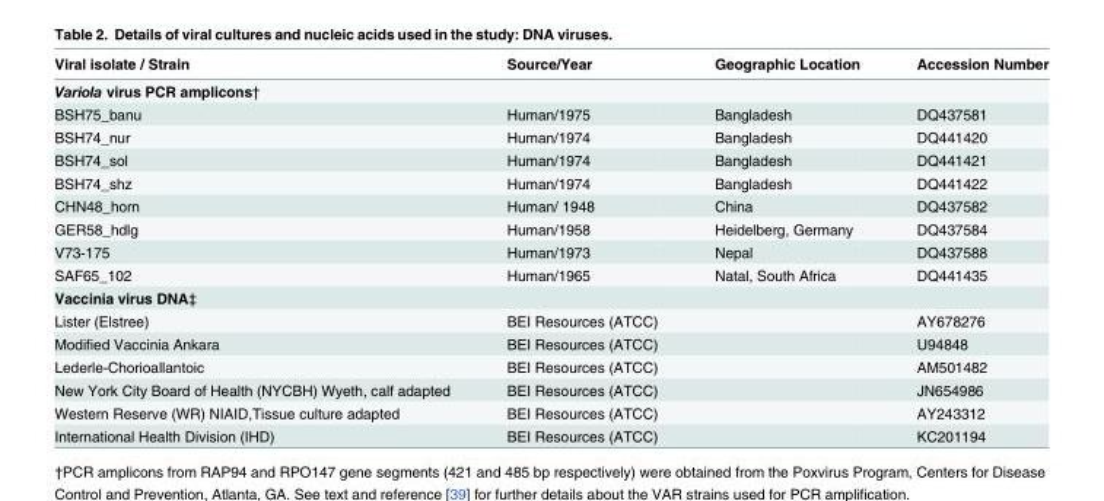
<table><thead><tr><td>Viral isolate / Strain</td><td>Source/Year</td><td>Geographic Location</td><td>Accession Number</td></tr></thead><tbody><tr><td colspan="4">Variola virus PCR amplicons†</td></tr><tr><td>BSH75_banu</td><td>Human/1975</td><td>Bangladesh</td><td>DQ437581</td></tr><tr><td>BSH74_nur</td><td>Human/1974</td><td>Bangladesh</td><td>DQ441420</td></tr><tr><td>BSH74_sol</td><td>Human/1974</td><td>Bangladesh</td><td>DQ441421</td></tr><tr><td>BSH74_shz</td><td>Human/1974</td><td>Bangladesh</td><td>DQ441422</td></tr><tr><td>CHN48_horn</td><td>Human/ 1948</td><td>China</td><td>DQ437582</td></tr><tr><td>GER58_hdlg</td><td>Human/1958</td><td>Heidelberg, Germany</td><td>DQ437584</td></tr><tr><td>V73-175</td><td>Human/1973</td><td>Nepal</td><td>DQ437588</td></tr><tr><td>SAF65_102</td><td>Human/1965</td><td>Natal, South Africa</td><td>DQ441435</td></tr><tr><td colspan="4">Vaccinia virus DNA‡</td></tr><tr><td>Lister (Elstree)</td><td>BEI Resources (ATCC)</td><td></td><td>AY678276</td></tr><tr><td>Modified Vaccinia Ankara</td><td>BEI Resources (ATCC)</td><td></td><td>U94848</td></tr><tr><td>Lederle-Chorioallantoic</td><td>BEI Resources (ATCC)</td><td></td><td>AM501482</td></tr><tr><td>New York City Board of Health (NYCBH) Wyeth, calf adapted</td><td>BEI Resources (ATCC)</td><td></td><td>JN654986</td></tr><tr><td>Western Reserve (WR) NIAID,Tissue culture adapted</td><td>BEI Resources (ATCC)</td><td></td><td>AY243312</td></tr><tr><td>International Health Division (IHD)</td><td>BEI Resources (ATCC)</td><td></td><td>KC201194</td></tr></tbody></table>